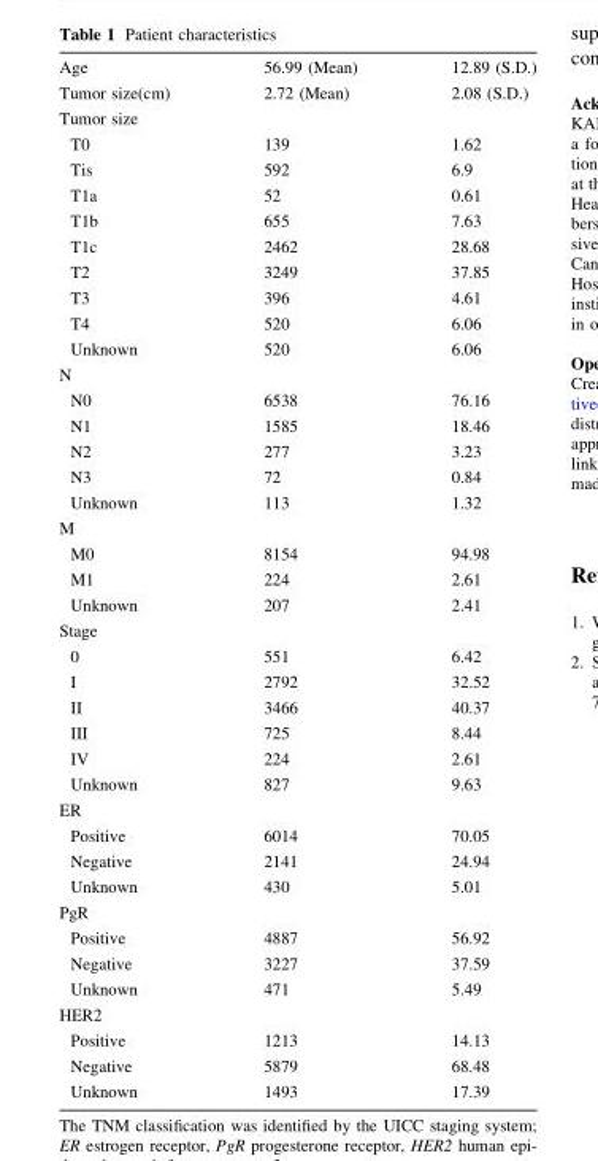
<table><tbody><tr><td>Age</td><td>56.99 (Mean)</td><td>12.89 (S.D.)</td></tr><tr><td>Tumor size(cm)</td><td>2.72 (Mean)</td><td>2.08 (S.D.)</td></tr><tr><td colspan="3">Tumor size</td></tr><tr><td>T0</td><td>139</td><td>1.62</td></tr><tr><td>Tis</td><td>592</td><td>6.9</td></tr><tr><td>T1a</td><td>52</td><td>0.61</td></tr><tr><td>T1b</td><td>655</td><td>7.63</td></tr><tr><td>T1c</td><td>2462</td><td>28.68</td></tr><tr><td>T2</td><td>3249</td><td>37.85</td></tr><tr><td>T3</td><td>396</td><td>4.61</td></tr><tr><td>T4</td><td>520</td><td>6.06</td></tr><tr><td>Unknown</td><td>520</td><td>6.06</td></tr><tr><td colspan="3">N</td></tr><tr><td>N0</td><td>6538</td><td>76.16</td></tr><tr><td>N1</td><td>1585</td><td>18.46</td></tr><tr><td>N2</td><td>277</td><td>3.23</td></tr><tr><td>N3</td><td>72</td><td>0.84</td></tr><tr><td>Unknown</td><td>113</td><td>1.32</td></tr><tr><td colspan="3">M</td></tr><tr><td>M0</td><td>8154</td><td>94.98</td></tr><tr><td>M1</td><td>224</td><td>2.61</td></tr><tr><td>Unknown</td><td>207</td><td>2.41</td></tr><tr><td colspan="3">Stage</td></tr><tr><td>0</td><td>551</td><td>6.42</td></tr><tr><td>I</td><td>2792</td><td>32.52</td></tr><tr><td>II</td><td>3466</td><td>40.37</td></tr><tr><td>III</td><td>725</td><td>8.44</td></tr><tr><td>IV</td><td>224</td><td>2.61</td></tr><tr><td>Unknown</td><td>827</td><td>9.63</td></tr><tr><td colspan="3">ER</td></tr><tr><td>Positive</td><td>6014</td><td>70.05</td></tr><tr><td>Negative</td><td>2141</td><td>24.94</td></tr><tr><td>Unknown</td><td>430</td><td>5.01</td></tr><tr><td colspan="3">PgR</td></tr><tr><td>Positive</td><td>4887</td><td>56.92</td></tr><tr><td>Negative</td><td>3227</td><td>37.59</td></tr><tr><td>Unknown</td><td>471</td><td>5.49</td></tr><tr><td colspan="3">HER2</td></tr><tr><td>Positive</td><td>1213</td><td>14.13</td></tr><tr><td>Negative</td><td>5879</td><td>68.48</td></tr><tr><td>Unknown</td><td>1493</td><td>17.39</td></tr></tbody></table>